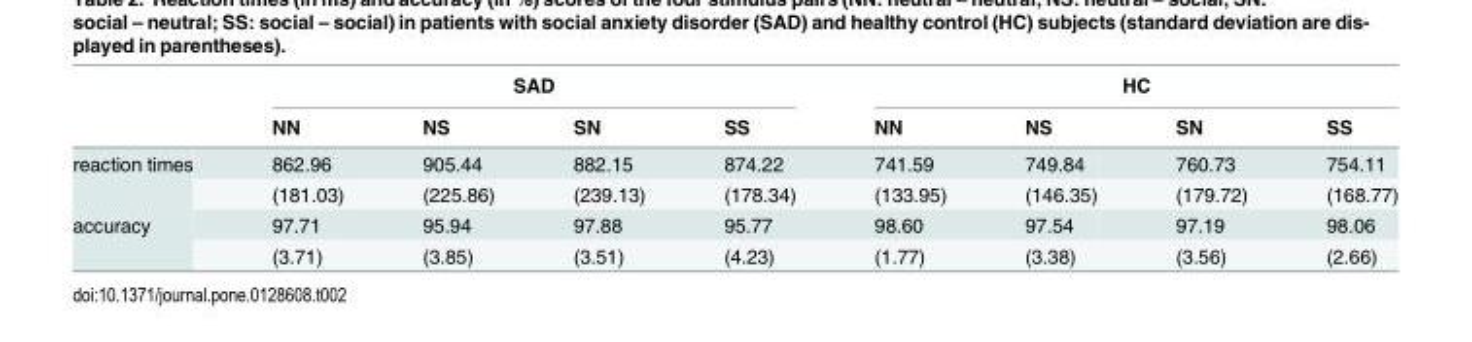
<table><thead><tr><td rowspan="2"></td><td colspan="4">SAD</td><td colspan="4">HC</td></tr><tr><td>NN</td><td>NS</td><td>SN</td><td>SS</td><td>NN</td><td>NS</td><td>SN</td><td>SS</td></tr></thead><tbody><tr><td rowspan="2">reaction times</td><td>862.96</td><td>905.44</td><td>882.15</td><td>874.22</td><td>741.59</td><td>749.84</td><td>760.73</td><td>754.11</td></tr><tr><td>(181.03)</td><td>(225.86)</td><td>(239.13)</td><td>(178.34)</td><td>(133.95)</td><td>(146.35)</td><td>(179.72)</td><td>(168.77)</td></tr><tr><td rowspan="2">accuracy</td><td>97.71</td><td>95.94</td><td>97.88</td><td>95.77</td><td>98.60</td><td>97.54</td><td>97.19</td><td>98.06</td></tr><tr><td>(3.71)</td><td>(3.85)</td><td>(3.51)</td><td>(4.23)</td><td>(1.77)</td><td>(3.38)</td><td>(3.56)</td><td>(2.66)</td></tr></tbody></table>